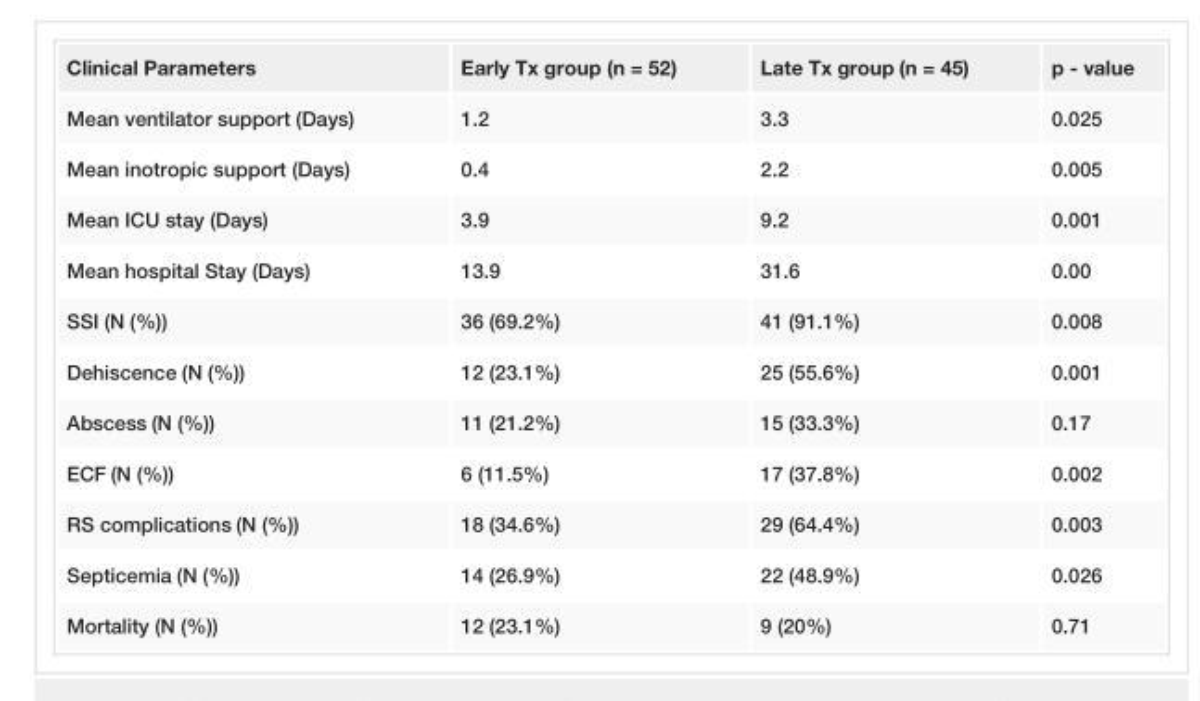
<table><tbody><tr><td>Clinical Parameters</td><td>Early Tx group (n = 52)</td><td>Late Tx group (n = 45)</td><td>p - value</td></tr><tr><td>Mean ventilator support (Days)</td><td>1.2</td><td>3.3</td><td>0.025</td></tr><tr><td>Mean inotropic support (Days)</td><td>0.4</td><td>2.2</td><td>0.005</td></tr><tr><td>Mean ICU stay (Days)</td><td>3.9</td><td>9.2</td><td>0.001</td></tr><tr><td>Mean hospital Stay (Days)</td><td>13.9</td><td>31.6</td><td>0.00</td></tr><tr><td>SSI (N (%))</td><td>36 (69.2%)</td><td>41 (91.1%)</td><td>0.008</td></tr><tr><td>Dehiscence (N (%))</td><td>12 (23.1%)</td><td>25 (55.6%)</td><td>0.001</td></tr><tr><td>Abscess (N (%))</td><td>11 (21.2%)</td><td>15 (33.3%)</td><td>0.17</td></tr><tr><td>ECF (N (%))</td><td>6 (11.5%)</td><td>17 (37.8%)</td><td>0.002</td></tr><tr><td>RS complications (N (%))</td><td>18 (34.6%)</td><td>29 (64.4%)</td><td>0.003</td></tr><tr><td>Septicemia (N (%))</td><td>14 (26.9%)</td><td>22 (48.9%)</td><td>0.026</td></tr><tr><td>Mortality (N (%))</td><td>12 (23.1%)</td><td>9 (20%)</td><td>0.71</td></tr></tbody></table>